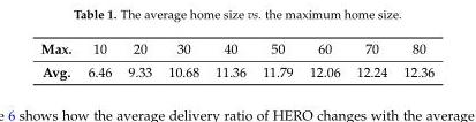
<table><tbody><tr><td>Max.</td><td>10</td><td>20</td><td>30</td><td>40</td><td>50</td><td>60</td><td>70</td><td>80</td></tr><tr><td>Avg.</td><td>6.46</td><td>9.33</td><td>10.68</td><td>11.36</td><td>11.79</td><td>12.06</td><td>12.24</td><td>12.36</td></tr></tbody></table>